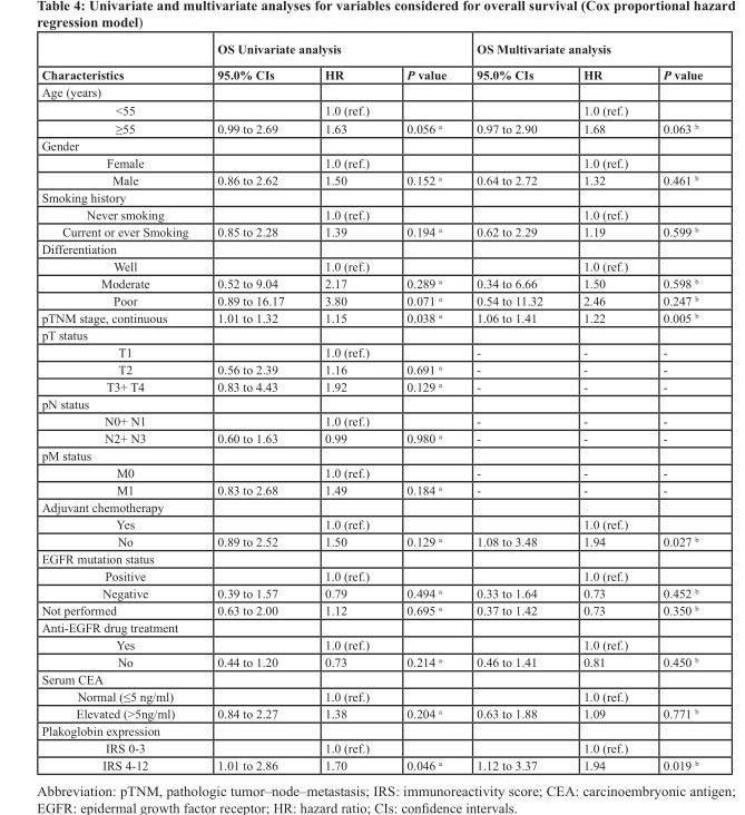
<table><thead><tr><td rowspan="2">Characteristics</td><td colspan="3">OS Univariate analysis</td><td colspan="3">OS Multivariate analysis</td></tr><tr><td>95.0% CIs</td><td>HR</td><td>P value</td><td>95.0% CIs</td><td>HR</td><td>P value</td></tr></thead><tbody><tr><td colspan="7">Age (years)</td></tr><tr><td>&lt;55</td><td></td><td>1.0 (ref.)</td><td></td><td></td><td>1.0 (ref.)</td><td></td></tr><tr><td>≥55</td><td>0.99 to 2.69</td><td>1.63</td><td>0.056 <sup>a</sup></td><td>0.97 to 2.90</td><td>1.68</td><td>0.063 <sup>b</sup></td></tr><tr><td colspan="7">Gender</td></tr><tr><td>Female</td><td></td><td>1.0 (ref.)</td><td></td><td></td><td>1.0 (ref.)</td><td></td></tr><tr><td>Male</td><td>0.86 to 2.62</td><td>1.50</td><td>0.152 <sup>a</sup></td><td>0.64 to 2.72</td><td>1.32</td><td>0.461 <sup>b</sup></td></tr><tr><td colspan="7">Smoking history</td></tr><tr><td>Never smoking</td><td></td><td>1.0 (ref.)</td><td></td><td></td><td>1.0 (ref.)</td><td></td></tr><tr><td>Current or ever Smoking</td><td>0.85 to 2.28</td><td>1.39</td><td>0.194 <sup>a</sup></td><td>0.62 to 2.29</td><td>1.19</td><td>0.599 <sup>b</sup></td></tr><tr><td colspan="7">Differentiation</td></tr><tr><td>Well</td><td></td><td>1.0 (ref.)</td><td></td><td></td><td>1.0 (ref.)</td><td></td></tr><tr><td>Moderate</td><td>0.52 to 9.04</td><td>2.17</td><td>0.289 <sup>a</sup></td><td>0.34 to 6.66</td><td>1.50</td><td>0.598 <sup>b</sup></td></tr><tr><td>Poor</td><td>0.89 to 16.17</td><td>3.80</td><td>0.071 <sup>a</sup></td><td>0.54 to 11.32</td><td>2.46</td><td>0.247 <sup>b</sup></td></tr><tr><td>pTNM stage, continuous</td><td>1.01 to 1.32</td><td>1.15</td><td>0.038 <sup>a</sup></td><td>1.06 to 1.41</td><td>1.22</td><td>0.005 <sup>b</sup></td></tr><tr><td colspan="7">pT status</td></tr><tr><td>T1</td><td></td><td>1.0 (ref.)</td><td></td><td>-</td><td>-</td><td>-</td></tr><tr><td>T2</td><td>0.56 to 2.39</td><td>1.16</td><td>0.691 <sup>a</sup></td><td>-</td><td>-</td><td>-</td></tr><tr><td>T3+ T4</td><td>0.83 to 4.43</td><td>1.92</td><td>0.129 <sup>a</sup></td><td>-</td><td>-</td><td>-</td></tr><tr><td colspan="7">pN status</td></tr><tr><td>N0+ N1</td><td></td><td>1.0 (ref.)</td><td></td><td>-</td><td>-</td><td>-</td></tr><tr><td>N2+ N3</td><td>0.60 to 1.63</td><td>0.99</td><td>0.980 <sup>a</sup></td><td>-</td><td>-</td><td>-</td></tr><tr><td colspan="7">pM status</td></tr><tr><td>M0</td><td></td><td>1.0 (ref.)</td><td></td><td>-</td><td>-</td><td>-</td></tr><tr><td>M1</td><td>0.83 to 2.68</td><td>1.49</td><td>0.184 <sup>a</sup></td><td>-</td><td>-</td><td>-</td></tr><tr><td colspan="7">Adjuvant chemotherapy</td></tr><tr><td>Yes</td><td></td><td>1.0 (ref.)</td><td></td><td></td><td>1.0 (ref.)</td><td></td></tr><tr><td>No</td><td>0.89 to 2.52</td><td>1.50</td><td>0.129 <sup>a</sup></td><td>1.08 to 3.48</td><td>1.94</td><td>0.027 <sup>b</sup></td></tr><tr><td colspan="7">EGFR mutation status</td></tr><tr><td>Positive</td><td></td><td>1.0 (ref.)</td><td></td><td></td><td>1.0 (ref.)</td><td></td></tr><tr><td>Negative</td><td>0.39 to 1.57</td><td>0.79</td><td>0.494 <sup>a</sup></td><td>0.33 to 1.64</td><td>0.73</td><td>0.452 <sup>b</sup></td></tr><tr><td>Not performed</td><td>0.63 to 2.00</td><td>1.12</td><td>0.695 <sup>a</sup></td><td>0.37 to 1.42</td><td>0.73</td><td>0.350 <sup>b</sup></td></tr><tr><td colspan="7">Anti-EGFR drug treatment</td></tr><tr><td>Yes</td><td></td><td>1.0 (ref.)</td><td></td><td></td><td>1.0 (ref.)</td><td></td></tr><tr><td>No</td><td>0.44 to 1.20</td><td>0.73</td><td>0.214 <sup>a</sup></td><td>0.46 to 1.41</td><td>0.81</td><td>0.450 <sup>b</sup></td></tr><tr><td colspan="7">Serum CEA</td></tr><tr><td>Normal (≤5 ng/ml)</td><td></td><td>1.0 (ref.)</td><td></td><td></td><td>1.0 (ref.)</td><td></td></tr><tr><td>Elevated (&gt;5ng/ml)</td><td>0.84 to 2.27</td><td>1.38</td><td>0.204 <sup>a</sup></td><td>0.63 to 1.88</td><td>1.09</td><td>0.771 <sup>b</sup></td></tr><tr><td colspan="7">Plakoglobin expression</td></tr><tr><td>IRS 0-3</td><td></td><td>1.0 (ref.)</td><td></td><td></td><td>1.0 (ref.)</td><td></td></tr><tr><td>IRS 4-12</td><td>1.01 to 2.86</td><td>1.70</td><td>0.046 <sup>a</sup></td><td>1.12 to 3.37</td><td>1.94</td><td>0.019 <sup>b</sup></td></tr></tbody></table>